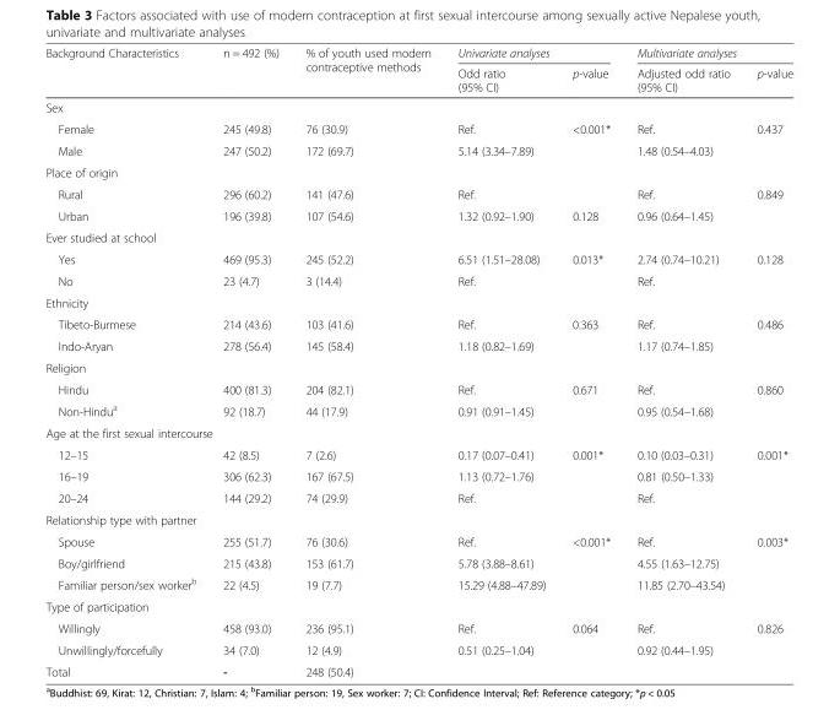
<table><thead><tr><td rowspan="2">Background Characteristics</td><td rowspan="2">n = 492 (%)</td><td rowspan="2">% of youth used modern contraceptive methods</td><td colspan="2">Univariate analyses</td><td colspan="2">Multivariate analyses</td></tr><tr><td>Odd ratio (95% CI)</td><td>p-value</td><td>Adjusted odd ratio (95% CI)</td><td>p-value</td></tr></thead><tbody><tr><td colspan="7">Sex</td></tr><tr><td>Female</td><td>245 (49.8)</td><td>76 (30.9)</td><td>Ref.</td><td rowspan="2">&lt;0.001*</td><td>Ref.</td><td rowspan="2">0.437</td></tr><tr><td>Male</td><td>247 (50.2)</td><td>172 (69.7)</td><td>5.14 (3.34–7.89)</td><td>1.48 (0.54–4.03)</td></tr><tr><td colspan="7">Place of origin</td></tr><tr><td>Rural</td><td>296 (60.2)</td><td>141 (47.6)</td><td>Ref.</td><td></td><td>Ref.</td><td rowspan="2">0.849</td></tr><tr><td>Urban</td><td>196 (39.8)</td><td>107 (54.6)</td><td>1.32 (0.92–1.90)</td><td>0.128</td><td>0.96 (0.64–1.45)</td></tr><tr><td colspan="7">Ever studied at school</td></tr><tr><td>Yes</td><td>469 (95.3)</td><td>245 (52.2)</td><td>6.51 (1.51–28.08)</td><td>0.013*</td><td>2.74 (0.74–10.21)</td><td rowspan="2">0.128</td></tr><tr><td>No</td><td>23 (4.7)</td><td>3 (14.4)</td><td>Ref.</td><td></td><td>Ref.</td></tr><tr><td colspan="7">Ethnicity</td></tr><tr><td>Tibeto-Burmese</td><td>214 (43.6)</td><td>103 (41.6)</td><td>Ref.</td><td rowspan="2">0.363</td><td>Ref.</td><td rowspan="2">0.486</td></tr><tr><td>Indo-Aryan</td><td>278 (56.4)</td><td>145 (58.4)</td><td>1.18 (0.82–1.69)</td><td>1.17 (0.74–1.85)</td></tr><tr><td colspan="7">Religion</td></tr><tr><td>Hindu</td><td>400 (81.3)</td><td>204 (82.1)</td><td>Ref.</td><td rowspan="2">0.671</td><td>Ref.</td><td rowspan="2">0.860</td></tr><tr><td>Non-Hindu<sup>a</sup></td><td>92 (18.7)</td><td>44 (17.9)</td><td>0.91 (0.91–1.45)</td><td>0.95 (0.54–1.68)</td></tr><tr><td colspan="7">Age at the first sexual intercourse</td></tr><tr><td>12–15</td><td>42 (8.5)</td><td>7 (2.6)</td><td>0.17 (0.07–0.41)</td><td rowspan="3">0.001*</td><td>0.10 (0.03–0.31)</td><td rowspan="3">0.001*</td></tr><tr><td>16–19</td><td>306 (62.3)</td><td>167 (67.5)</td><td>1.13 (0.72–1.76)</td><td>0.81 (0.50–1.33)</td></tr><tr><td>20–24</td><td>144 (29.2)</td><td>74 (29.9)</td><td>Ref.</td><td>Ref.</td></tr><tr><td colspan="7">Relationship type with partner</td></tr><tr><td>Spouse</td><td>255 (51.7)</td><td>76 (30.6)</td><td>Ref.</td><td rowspan="3">&lt;0.001*</td><td>Ref.</td><td rowspan="3">0.003*</td></tr><tr><td>Boy/girlfriend</td><td>215 (43.8)</td><td>153 (61.7)</td><td>5.78 (3.88–8.61)</td><td>4.55 (1.63–12.75)</td></tr><tr><td>Familiar person/sex worker<sup>b</sup></td><td>22 (4.5)</td><td>19 (7.7)</td><td>15.29 (4.88–47.89)</td><td>11.85 (2.70–43.54)</td></tr><tr><td colspan="7">Type of participation</td></tr><tr><td>Willingly</td><td>458 (93.0)</td><td>236 (95.1)</td><td>Ref.</td><td rowspan="2">0.064</td><td>Ref.</td><td rowspan="2">0.826</td></tr><tr><td>Unwillingly/forcefully</td><td>34 (7.0)</td><td>12 (4.9)</td><td>0.51 (0.25–1.04)</td><td>0.92 (0.44–1.95)</td></tr><tr><td>Total</td><td>-</td><td>248 (50.4)</td><td></td><td></td><td></td><td></td></tr></tbody></table>